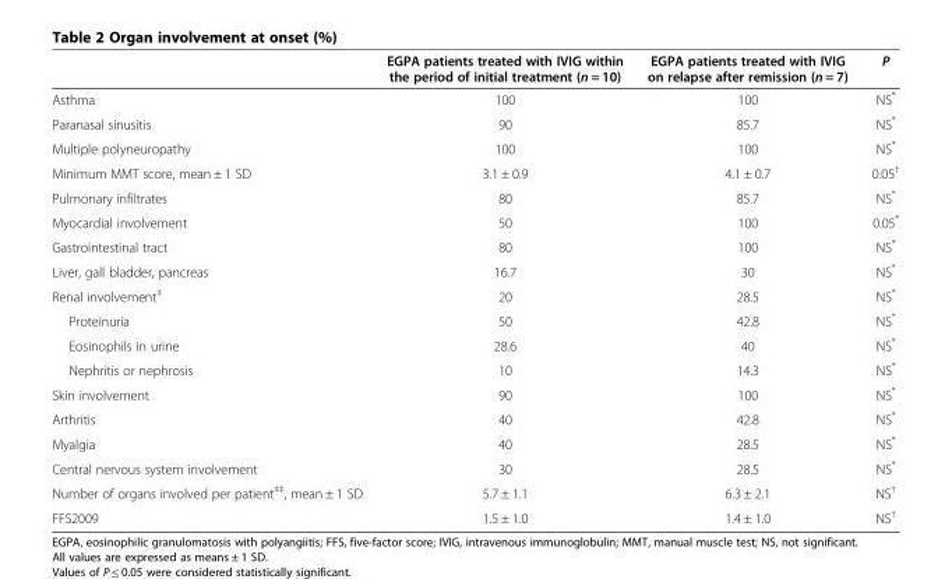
<table><thead><tr><td></td><td>EGPA patients treated with IVIG within the period of initial treatment (n = 10)</td><td>EGPA patients treated with IVIG on relapse after remission (n = 7)</td><td>P</td></tr></thead><tbody><tr><td>Asthma</td><td>100</td><td>100</td><td>NS*</td></tr><tr><td>Paranasal sinusitis</td><td>90</td><td>85.7</td><td>NS*</td></tr><tr><td>Multiple polyneuropathy</td><td>100</td><td>100</td><td>NS*</td></tr><tr><td>Minimum MMT score, mean ± 1 SD</td><td>3.1 ± 0.9</td><td>4.1 ± 0.7</td><td>0.05<sup>†</sup></td></tr><tr><td>Pulmonary infiltrates</td><td>80</td><td>85.7</td><td>NS*</td></tr><tr><td>Myocardial involvement</td><td>50</td><td>100</td><td>0.05*</td></tr><tr><td>Gastrointestinal tract</td><td>80</td><td>100</td><td>NS*</td></tr><tr><td>Liver, gall bladder, pancreas</td><td>16.7</td><td>30</td><td>NS*</td></tr><tr><td>Renal involvement<sup>‡</sup></td><td>20</td><td>28.5</td><td>NS*</td></tr><tr><td>Proteinuria</td><td>50</td><td>42.8</td><td>NS*</td></tr><tr><td>Eosinophils in urine</td><td>28.6</td><td>40</td><td>NS*</td></tr><tr><td>Nephritis or nephrosis</td><td>10</td><td>14.3</td><td>NS*</td></tr><tr><td>Skin involvement</td><td>90</td><td>100</td><td>NS*</td></tr><tr><td>Arthritis</td><td>40</td><td>42.8</td><td>NS*</td></tr><tr><td>Myalgia</td><td>40</td><td>28.5</td><td>NS*</td></tr><tr><td>Central nervous system involvement</td><td>30</td><td>28.5</td><td>NS*</td></tr><tr><td>Number of organs involved per patient<sup>‡‡</sup>, mean ± 1 SD</td><td>5.7 ± 1.1</td><td>6.3 ± 2.1</td><td>NS<sup>†</sup></td></tr><tr><td>FFS2009</td><td>1.5 ± 1.0</td><td>1.4 ± 1.0</td><td>NS<sup>†</sup></td></tr></tbody></table>